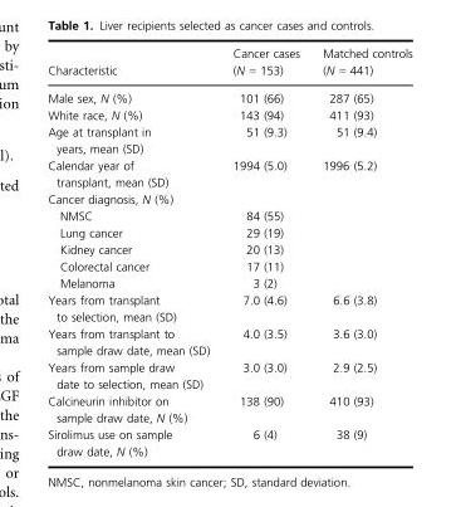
<table><thead><tr><td>Characteristic</td><td>Cancer cases (N = 153)</td><td>Matched controls (N = 441)</td></tr></thead><tbody><tr><td>Male sex, N (%)</td><td>101 (66)</td><td>287 (65)</td></tr><tr><td>White race, N (%)</td><td>143 (94)</td><td>411 (93)</td></tr><tr><td>Age at transplant in years, mean (SD)</td><td>51 (9.3)</td><td>51 (9.4)</td></tr><tr><td>Calendar year of transplant, mean (SD)</td><td>1994 (5.0)</td><td>1996 (5.2)</td></tr><tr><td colspan="3">Cancer diagnosis, N (%)</td></tr><tr><td>NMSC</td><td>84 (55)</td><td></td></tr><tr><td>Lung cancer</td><td>29 (19)</td><td></td></tr><tr><td>Kidney cancer</td><td>20 (13)</td><td></td></tr><tr><td>Colorectal cancer</td><td>17 (11)</td><td></td></tr><tr><td>Melanoma</td><td>3 (2)</td><td></td></tr><tr><td>Years from transplant to selection, mean (SD)</td><td>7.0 (4.6)</td><td>6.6 (3.8)</td></tr><tr><td>Years from transplant to sample draw date, mean (SD)</td><td>4.0 (3.5)</td><td>3.6 (3.0)</td></tr><tr><td>Years from sample draw date to selection, mean (SD)</td><td>3.0 (3.0)</td><td>2.9 (2.5)</td></tr><tr><td>Calcineurin inhibitor on sample draw date, N (%)</td><td>138 (90)</td><td>410 (93)</td></tr><tr><td>Sirolimus use on sample draw date, N (%)</td><td>6 (4)</td><td>38 (9)</td></tr></tbody></table>